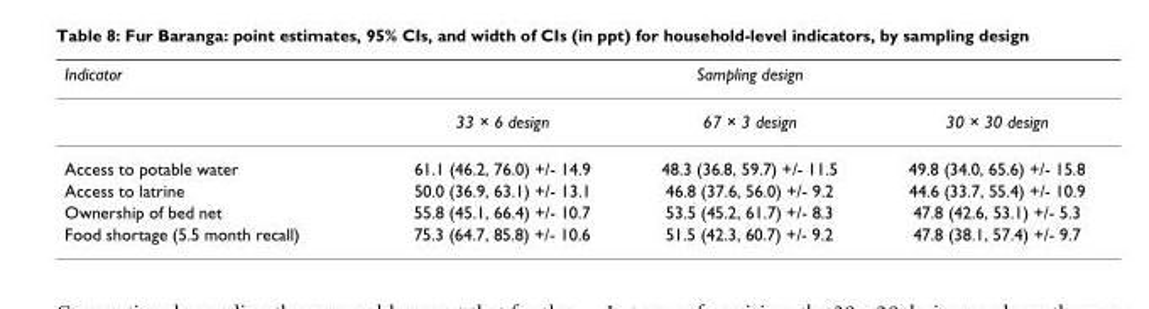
<table><thead><tr><td rowspan="2">Indicator</td><td colspan="3">Sampling design</td></tr><tr><td>33 × 6 design</td><td>67 × 3 design</td><td>30 × 30 design</td></tr></thead><tbody><tr><td>Access to potable water</td><td>61.1 (46.2, 76.0) +/- 14.9</td><td>48.3 (36.8, 59.7) +/- 11.5</td><td>49.8 (34.0, 65.6) +/- 15.8</td></tr><tr><td>Access to latrine</td><td>50.0 (36.9, 63.1) +/- 13.1</td><td>46.8 (37.6, 56.0) +/- 9.2</td><td>44.6 (33.7, 55.4) +/- 10.9</td></tr><tr><td>Ownership of bed net</td><td>55.8 (45.1, 66.4) +/- 10.7</td><td>53.5 (45.2, 61.7) +/- 8.3</td><td>47.8 (42.6, 53.1) +/- 5.3</td></tr><tr><td>Food shortage (5.5 month recall)</td><td>75.3 (64.7, 85.8) +/- 10.6</td><td>51.5 (42.3, 60.7) +/- 9.2</td><td>47.8 (38.1, 57.4) +/- 9.7</td></tr></tbody></table>